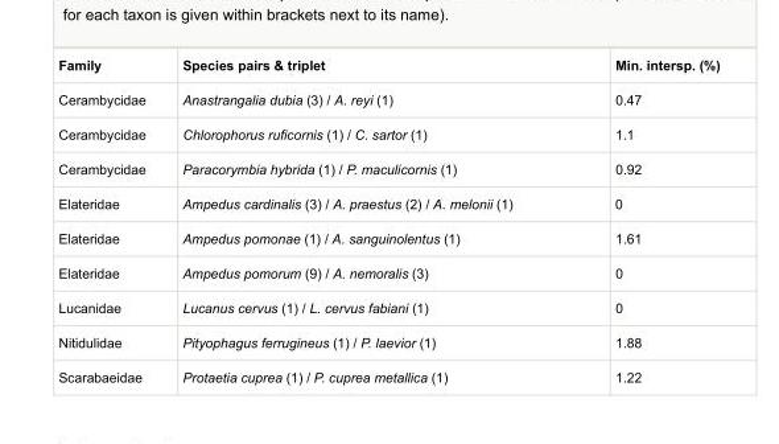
<table><tbody><tr><td>Family</td><td>Species pairs &amp; triplet</td><td>Min. intersp. (%)</td></tr><tr><td>Cerambycidae</td><td>Anastrangalia dubia (3) / A. reyi (1)</td><td>0.47</td></tr><tr><td>Cerambycidae</td><td>Chlorophorus ruficornis (1) / C. sartor (1)</td><td>1.1</td></tr><tr><td>Cerambycidae</td><td>Paracorymbia hybrida (1) / P. maculicornis (1)</td><td>0.92</td></tr><tr><td>Elateridae</td><td>Ampedus cardinalis (3) / A. praestus (2) / A. melonii (1)</td><td>0</td></tr><tr><td>Elateridae</td><td>Ampedus pomonae (1) / A. sanguinolentus (1)</td><td>1.61</td></tr><tr><td>Elateridae</td><td>Ampedus pomorum (9) / A. nemoralis (3)</td><td>0</td></tr><tr><td>Lucanidae</td><td>Lucanus cervus (1) / L. cervus fabiani (1)</td><td>0</td></tr><tr><td>Nitidulidae</td><td>Pityophagus ferrugineus (1) / P. laevior (1)</td><td>1.88</td></tr><tr><td>Scarabaeidae</td><td>Protaetia cuprea (1) / P. cuprea metallica (1)</td><td>1.22</td></tr></tbody></table>